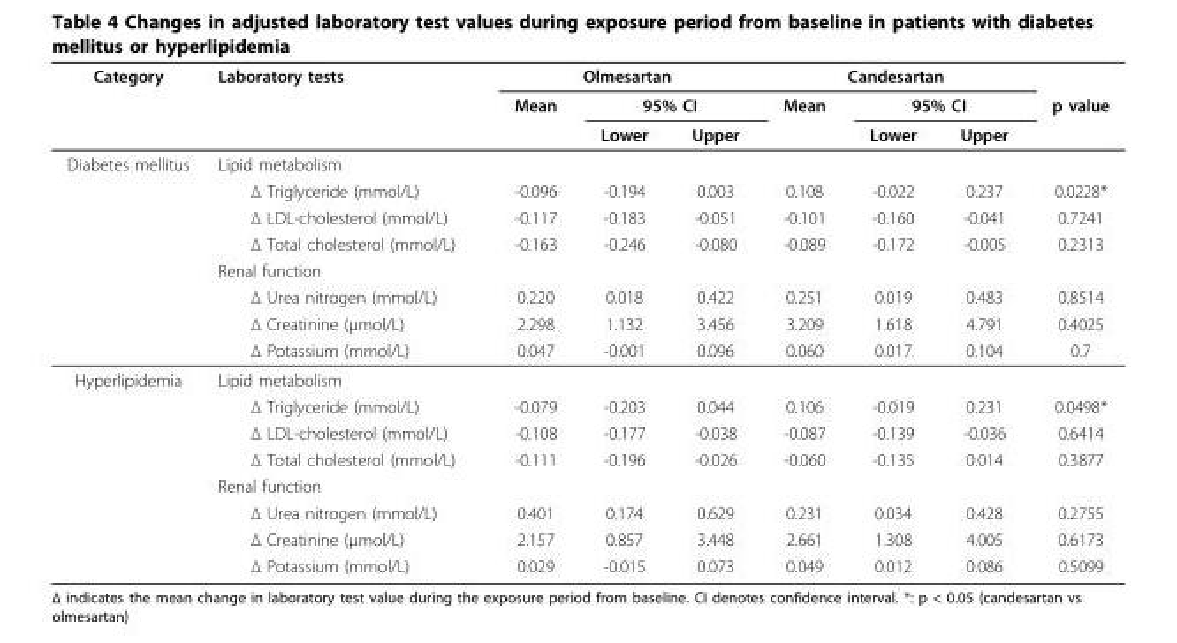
<table><thead><tr><td rowspan="3">Category</td><td rowspan="3">Laboratory tests</td><td colspan="3">Olmesartan</td><td colspan="3">Candesartan</td><td rowspan="3">p value</td></tr><tr><td rowspan="2">Mean</td><td colspan="2">95% CI</td><td rowspan="2">Mean</td><td colspan="2">95% CI</td></tr><tr><td>Lower</td><td>Upper</td><td>Lower</td><td>Upper</td></tr></thead><tbody><tr><td rowspan="8">Diabetes mellitus</td><td>Lipid metabolism</td><td></td><td></td><td></td><td></td><td></td><td></td><td></td></tr><tr><td>Δ Triglyceride (mmol/L)</td><td>-0.096</td><td>-0.194</td><td>0.003</td><td>0.108</td><td>-0.022</td><td>0.237</td><td>0.0228*</td></tr><tr><td>Δ LDL-cholesterol (mmol/L)</td><td>-0.117</td><td>-0.183</td><td>-0.051</td><td>-0.101</td><td>-0.160</td><td>-0.041</td><td>0.7241</td></tr><tr><td>Δ Total cholesterol (mmol/L)</td><td>-0.163</td><td>-0.246</td><td>-0.080</td><td>-0.089</td><td>-0.172</td><td>-0.005</td><td>0.2313</td></tr><tr><td>Renal function</td><td></td><td></td><td></td><td></td><td></td><td></td><td></td></tr><tr><td>Δ Urea nitrogen (mmol/L)</td><td>0.220</td><td>0.018</td><td>0.422</td><td>0.251</td><td>0.019</td><td>0.483</td><td>0.8514</td></tr><tr><td>Δ Creatinine (μmol/L)</td><td>2.298</td><td>1.132</td><td>3.456</td><td>3.209</td><td>1.618</td><td>4.791</td><td>0.4025</td></tr><tr><td>Δ Potassium (mmol/L)</td><td>0.047</td><td>-0.001</td><td>0.096</td><td>0.060</td><td>0.017</td><td>0.104</td><td>0.7</td></tr><tr><td rowspan="8">Hyperlipidemia</td><td>Lipid metabolism</td><td></td><td></td><td></td><td></td><td></td><td></td><td></td></tr><tr><td>Δ Triglyceride (mmol/L)</td><td>-0.079</td><td>-0.203</td><td>0.044</td><td>0.106</td><td>-0.019</td><td>0.231</td><td>0.0498*</td></tr><tr><td>Δ LDL-cholesterol (mmol/L)</td><td>-0.108</td><td>-0.177</td><td>-0.038</td><td>-0.087</td><td>-0.139</td><td>-0.036</td><td>0.6414</td></tr><tr><td>Δ Total cholesterol (mmol/L)</td><td>-0.111</td><td>-0.196</td><td>-0.026</td><td>-0.060</td><td>-0.135</td><td>0.014</td><td>0.3877</td></tr><tr><td>Renal function</td><td></td><td></td><td></td><td></td><td></td><td></td><td></td></tr><tr><td>Δ Urea nitrogen (mmol/L)</td><td>0.401</td><td>0.174</td><td>0.629</td><td>0.231</td><td>0.034</td><td>0.428</td><td>0.2755</td></tr><tr><td>Δ Creatinine (μmol/L)</td><td>2.157</td><td>0.857</td><td>3.448</td><td>2.661</td><td>1.308</td><td>4.005</td><td>0.6173</td></tr><tr><td>Δ Potassium (mmol/L)</td><td>0.029</td><td>-0.015</td><td>0.073</td><td>0.049</td><td>0.012</td><td>0.086</td><td>0.5099</td></tr></tbody></table>